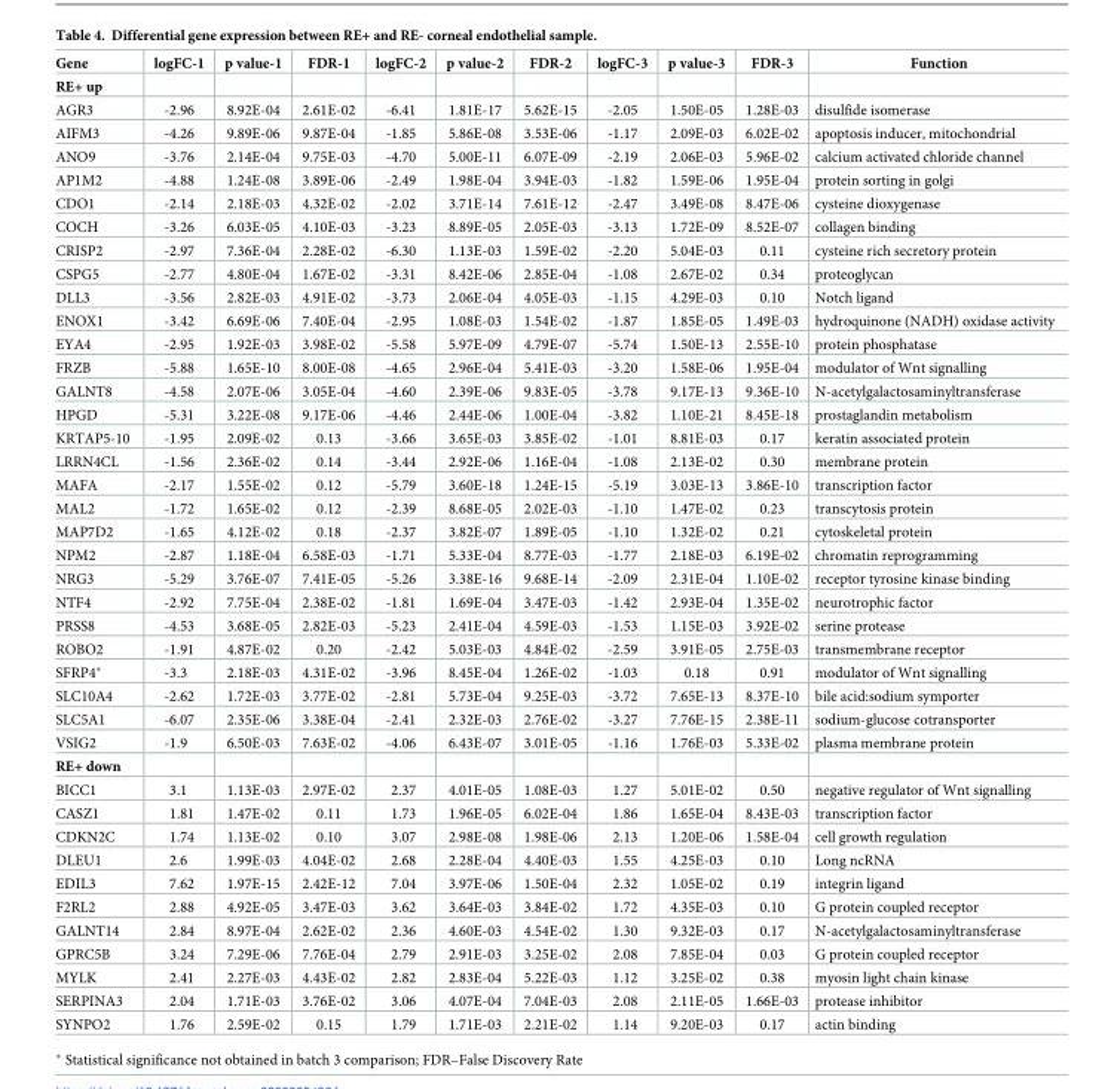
<table><thead><tr><td>Gene</td><td>logFC-1</td><td>p value-1</td><td>FDR-1</td><td>logFC-2</td><td>p value-2</td><td>FDR-2</td><td>logFC-3</td><td>p value-3</td><td>FDR-3</td><td>Function</td></tr></thead><tbody><tr><td colspan="11">RE+ up</td></tr><tr><td>AGR3</td><td>-2.96</td><td>8.92E-04</td><td>2.61E-02</td><td>-6.41</td><td>1.81E-17</td><td>5.62E-15</td><td>-2.05</td><td>1.50E-05</td><td>1.28E-03</td><td>disulfide isomerase</td></tr><tr><td>AIFM3</td><td>-4.26</td><td>9.89E-06</td><td>9.87E-04</td><td>-1.85</td><td>5.86E-08</td><td>3.53E-06</td><td>-1.17</td><td>2.09E-03</td><td>6.02E-02</td><td>apoptosis inducer, mitochondrial</td></tr><tr><td>ANO9</td><td>-3.76</td><td>2.14E-04</td><td>9.75E-03</td><td>-4.70</td><td>5.00E-11</td><td>6.07E-09</td><td>-2.19</td><td>2.06E-03</td><td>5.96E-02</td><td>calcium activated chloride channel</td></tr><tr><td>AP1M2</td><td>-4.88</td><td>1.24E-08</td><td>3.89E-06</td><td>-2.49</td><td>1.98E-04</td><td>3.94E-03</td><td>-1.82</td><td>1.59E-06</td><td>1.95E-04</td><td>protein sorting in golgi</td></tr><tr><td>CDO1</td><td>-2.14</td><td>2.18E-03</td><td>4.32E-02</td><td>-2.02</td><td>3.71E-14</td><td>7.61E-12</td><td>-2.47</td><td>3.49E-08</td><td>8.47E-06</td><td>cysteine dioxygenase</td></tr><tr><td>COCH</td><td>-3.26</td><td>6.03E-05</td><td>4.10E-03</td><td>-3.23</td><td>8.89E-05</td><td>2.05E-03</td><td>-3.13</td><td>1.72E-09</td><td>8.52E-07</td><td>collagen binding</td></tr><tr><td>CRISP2</td><td>-2.97</td><td>7.36E-04</td><td>2.28E-02</td><td>-6.30</td><td>1.13E-03</td><td>1.59E-02</td><td>-2.20</td><td>5.04E-03</td><td>0.11</td><td>cysteine rich secretory protein</td></tr><tr><td>CSPG5</td><td>-2.77</td><td>4.80E-04</td><td>1.67E-02</td><td>-3.31</td><td>8.42E-06</td><td>2.85E-04</td><td>-1.08</td><td>2.67E-02</td><td>0.34</td><td>proteoglycan</td></tr><tr><td>DLL3</td><td>-3.56</td><td>2.82E-03</td><td>4.91E-02</td><td>-3.73</td><td>2.06E-04</td><td>4.05E-03</td><td>-1.15</td><td>4.29E-03</td><td>0.10</td><td>Notch ligand</td></tr><tr><td>ENOX1</td><td>-3.42</td><td>6.69E-06</td><td>7.40E-04</td><td>-2.95</td><td>1.08E-03</td><td>1.54E-02</td><td>-1.87</td><td>1.85E-05</td><td>1.49E-03</td><td>hydroquinone (NADH) oxidase activity</td></tr><tr><td>EYA4</td><td>-2.95</td><td>1.92E-03</td><td>3.98E-02</td><td>-5.58</td><td>5.97E-09</td><td>4.79E-07</td><td>-5.74</td><td>1.50E-13</td><td>2.55E-10</td><td>protein phosphatase</td></tr><tr><td>FRZB</td><td>-5.88</td><td>1.65E-10</td><td>8.00E-08</td><td>-4.65</td><td>2.96E-04</td><td>5.41E-03</td><td>-3.20</td><td>1.58E-06</td><td>1.95E-04</td><td>modulator of Wnt signalling</td></tr><tr><td>GALNT8</td><td>-4.58</td><td>2.07E-06</td><td>3.05E-04</td><td>-4.60</td><td>2.39E-06</td><td>9.83E-05</td><td>-3.78</td><td>9.17E-13</td><td>9.36E-10</td><td>N-acetylgalactosaminyltransferase</td></tr><tr><td>HPGD</td><td>-5.31</td><td>3.22E-08</td><td>9.17E-06</td><td>-4.46</td><td>2.44E-06</td><td>1.00E-04</td><td>-3.82</td><td>1.10E-21</td><td>8.45E-18</td><td>prostaglandin metabolism</td></tr><tr><td>KRTAP5-10</td><td>-1.95</td><td>2.09E-02</td><td>0.13</td><td>-3.66</td><td>3.65E-03</td><td>3.85E-02</td><td>-1.01</td><td>8.81E-03</td><td>0.17</td><td>keratin associated protein</td></tr><tr><td>LRRN4CL</td><td>-1.56</td><td>2.36E-02</td><td>0.14</td><td>-3.44</td><td>2.92E-06</td><td>1.16E-04</td><td>-1.08</td><td>2.13E-02</td><td>0.30</td><td>membrane protein</td></tr><tr><td>MAFA</td><td>-2.17</td><td>1.55E-02</td><td>0.12</td><td>-5.79</td><td>3.60E-18</td><td>1.24E-15</td><td>-5.19</td><td>3.03E-13</td><td>3.86E-10</td><td>transcription factor</td></tr><tr><td>MAL2</td><td>-1.72</td><td>1.65E-02</td><td>0.12</td><td>-2.39</td><td>8.68E-05</td><td>2.02E-03</td><td>-1.10</td><td>1.47E-02</td><td>0.23</td><td>transcytosis protein</td></tr><tr><td>MAP7D2</td><td>-1.65</td><td>4.12E-02</td><td>0.18</td><td>-2.37</td><td>3.82E-07</td><td>1.89E-05</td><td>-1.10</td><td>1.32E-02</td><td>0.21</td><td>cytoskeletal protein</td></tr><tr><td>NPM2</td><td>-2.87</td><td>1.18E-04</td><td>6.58E-03</td><td>-1.71</td><td>5.33E-04</td><td>8.77E-03</td><td>-1.77</td><td>2.18E-03</td><td>6.19E-02</td><td>chromatin reprogramming</td></tr><tr><td>NRG3</td><td>-5.29</td><td>3.76E-07</td><td>7.41E-05</td><td>-5.26</td><td>3.38E-16</td><td>9.68E-14</td><td>-2.09</td><td>2.31E-04</td><td>1.10E-02</td><td>receptor tyrosine kinase binding</td></tr><tr><td>NTF4</td><td>-2.92</td><td>7.75E-04</td><td>2.38E-02</td><td>-1.81</td><td>1.69E-04</td><td>3.47E-03</td><td>-1.42</td><td>2.93E-04</td><td>1.35E-02</td><td>neurotrophic factor</td></tr><tr><td>PRSS8</td><td>-4.53</td><td>3.68E-05</td><td>2.82E-03</td><td>-5.23</td><td>2.41E-04</td><td>4.59E-03</td><td>-1.53</td><td>1.15E-03</td><td>3.92E-02</td><td>serine protease</td></tr><tr><td>ROBO2</td><td>-1.91</td><td>4.87E-02</td><td>0.20</td><td>-2.42</td><td>5.03E-03</td><td>4.84E-02</td><td>-2.59</td><td>3.91E-05</td><td>2.75E-03</td><td>transmembrane receptor</td></tr><tr><td>SFRP4*</td><td>-3.3</td><td>2.18E-03</td><td>4.31E-02</td><td>-3.96</td><td>8.45E-04</td><td>1.26E-02</td><td>-1.03</td><td>0.18</td><td>0.91</td><td>modulator of Wnt signalling</td></tr><tr><td>SLC10A4</td><td>-2.62</td><td>1.72E-03</td><td>3.77E-02</td><td>-2.81</td><td>5.73E-04</td><td>9.25E-03</td><td>-3.72</td><td>7.65E-13</td><td>8.37E-10</td><td>bile acid:sodium symporter</td></tr><tr><td>SLC5A1</td><td>-6.07</td><td>2.35E-06</td><td>3.38E-04</td><td>-2.41</td><td>2.32E-03</td><td>2.76E-02</td><td>-3.27</td><td>7.76E-15</td><td>2.38E-11</td><td>sodium-glucose cotransporter</td></tr><tr><td>VSIG2</td><td>-1.9</td><td>6.50E-03</td><td>7.63E-02</td><td>-4.06</td><td>6.43E-07</td><td>3.01E-05</td><td>-1.16</td><td>1.76E-03</td><td>5.33E-02</td><td>plasma membrane protein</td></tr><tr><td colspan="11">RE+ down</td></tr><tr><td>BICC1</td><td>3.1</td><td>1.13E-03</td><td>2.97E-02</td><td>2.37</td><td>4.01E-05</td><td>1.08E-03</td><td>1.27</td><td>5.01E-02</td><td>0.50</td><td>negative regulator of Wnt signalling</td></tr><tr><td>CASZ1</td><td>1.81</td><td>1.47E-02</td><td>0.11</td><td>1.73</td><td>1.96E-05</td><td>6.02E-04</td><td>1.86</td><td>1.65E-04</td><td>8.43E-03</td><td>transcription factor</td></tr><tr><td>CDKN2C</td><td>1.74</td><td>1.13E-02</td><td>0.10</td><td>3.07</td><td>2.98E-08</td><td>1.98E-06</td><td>2.13</td><td>1.20E-06</td><td>1.58E-04</td><td>cell growth regulation</td></tr><tr><td>DLEU1</td><td>2.6</td><td>1.99E-03</td><td>4.04E-02</td><td>2.68</td><td>2.28E-04</td><td>4.40E-03</td><td>1.55</td><td>4.25E-03</td><td>0.10</td><td>Long ncRNA</td></tr><tr><td>EDIL3</td><td>7.62</td><td>1.97E-15</td><td>2.42E-12</td><td>7.04</td><td>3.97E-06</td><td>1.50E-04</td><td>2.32</td><td>1.05E-02</td><td>0.19</td><td>integrin ligand</td></tr><tr><td>F2RL2</td><td>2.88</td><td>4.92E-05</td><td>3.47E-03</td><td>3.62</td><td>3.64E-03</td><td>3.84E-02</td><td>1.72</td><td>4.35E-03</td><td>0.10</td><td>G protein coupled receptor</td></tr><tr><td>GALNT14</td><td>2.84</td><td>8.97E-04</td><td>2.62E-02</td><td>2.36</td><td>4.60E-03</td><td>4.54E-02</td><td>1.30</td><td>9.32E-03</td><td>0.17</td><td>N-acetylgalactosaminyltransferase</td></tr><tr><td>GPRC5B</td><td>3.24</td><td>7.29E-06</td><td>7.76E-04</td><td>2.79</td><td>2.91E-03</td><td>3.25E-02</td><td>2.08</td><td>7.85E-04</td><td>0.03</td><td>G protein coupled receptor</td></tr><tr><td>MYLK</td><td>2.41</td><td>2.27E-03</td><td>4.43E-02</td><td>2.82</td><td>2.83E-04</td><td>5.22E-03</td><td>1.12</td><td>3.25E-02</td><td>0.38</td><td>myosin light chain kinase</td></tr><tr><td>SERPINA3</td><td>2.04</td><td>1.71E-03</td><td>3.76E-02</td><td>3.06</td><td>4.07E-04</td><td>7.04E-03</td><td>2.08</td><td>2.11E-05</td><td>1.66E-03</td><td>protease inhibitor</td></tr><tr><td>SYNPO2</td><td>1.76</td><td>2.59E-02</td><td>0.15</td><td>1.79</td><td>1.71E-03</td><td>2.21E-02</td><td>1.14</td><td>9.20E-03</td><td>0.17</td><td>actin binding</td></tr></tbody></table>